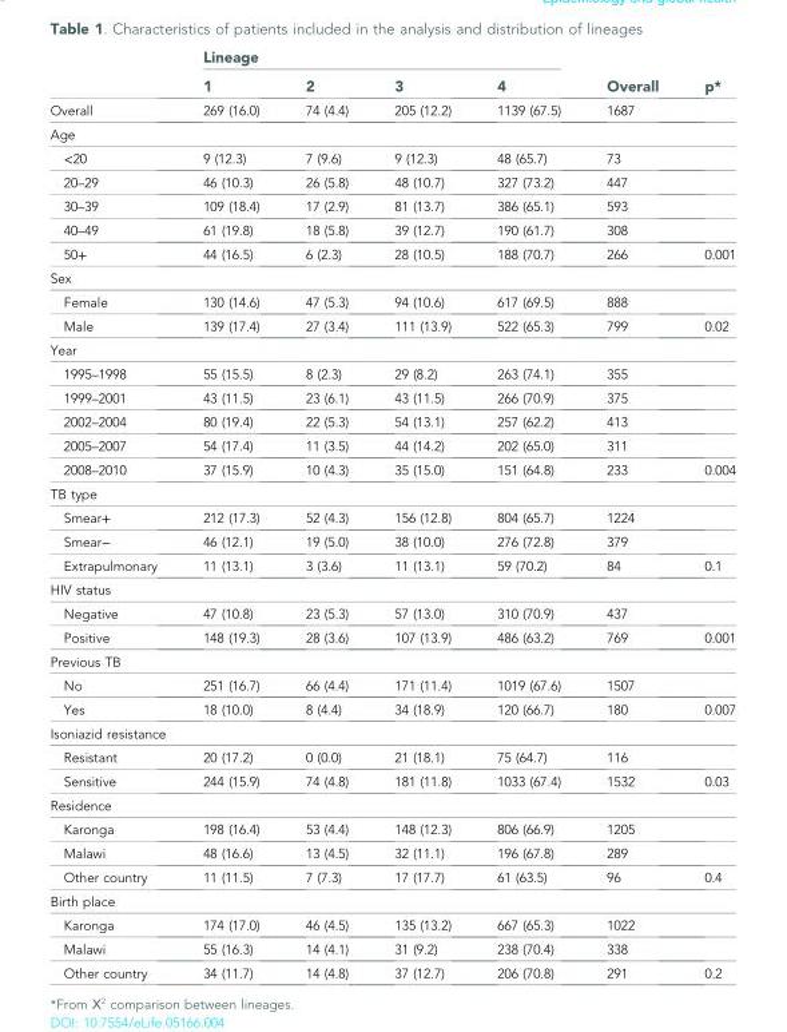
<table><thead><tr><td rowspan="2"></td><td colspan="4">Lineage</td><td rowspan="2">Overall</td><td rowspan="2">p*</td></tr><tr><td>1</td><td>2</td><td>3</td><td>4</td></tr></thead><tbody><tr><td>Overall</td><td>269 (16.0)</td><td>74 (4.4)</td><td>205 (12.2)</td><td>1139 (67.5)</td><td>1687</td><td></td></tr><tr><td colspan="7">Age</td></tr><tr><td>&lt;20</td><td>9 (12.3)</td><td>7 (9.6)</td><td>9 (12.3)</td><td>48 (65.7)</td><td>73</td><td></td></tr><tr><td>20–29</td><td>46 (10.3)</td><td>26 (5.8)</td><td>48 (10.7)</td><td>327 (73.2)</td><td>447</td><td></td></tr><tr><td>30–39</td><td>109 (18.4)</td><td>17 (2.9)</td><td>81 (13.7)</td><td>386 (65.1)</td><td>593</td><td></td></tr><tr><td>40–49</td><td>61 (19.8)</td><td>18 (5.8)</td><td>39 (12.7)</td><td>190 (61.7)</td><td>308</td><td></td></tr><tr><td>50+</td><td>44 (16.5)</td><td>6 (2.3)</td><td>28 (10.5)</td><td>188 (70.7)</td><td>266</td><td>0.001</td></tr><tr><td colspan="7">Sex</td></tr><tr><td>Female</td><td>130 (14.6)</td><td>47 (5.3)</td><td>94 (10.6)</td><td>617 (69.5)</td><td>888</td><td></td></tr><tr><td>Male</td><td>139 (17.4)</td><td>27 (3.4)</td><td>111 (13.9)</td><td>522 (65.3)</td><td>799</td><td>0.02</td></tr><tr><td colspan="7">Year</td></tr><tr><td>1995–1998</td><td>55 (15.5)</td><td>8 (2.3)</td><td>29 (8.2)</td><td>263 (74.1)</td><td>355</td><td></td></tr><tr><td>1999–2001</td><td>43 (11.5)</td><td>23 (6.1)</td><td>43 (11.5)</td><td>266 (70.9)</td><td>375</td><td></td></tr><tr><td>2002–2004</td><td>80 (19.4)</td><td>22 (5.3)</td><td>54 (13.1)</td><td>257 (62.2)</td><td>413</td><td></td></tr><tr><td>2005–2007</td><td>54 (17.4)</td><td>11 (3.5)</td><td>44 (14.2)</td><td>202 (65.0)</td><td>311</td><td></td></tr><tr><td>2008–2010</td><td>37 (15.9)</td><td>10 (4.3)</td><td>35 (15.0)</td><td>151 (64.8)</td><td>233</td><td>0.004</td></tr><tr><td colspan="7">TB type</td></tr><tr><td>Smear+</td><td>212 (17.3)</td><td>52 (4.3)</td><td>156 (12.8)</td><td>804 (65.7)</td><td>1224</td><td></td></tr><tr><td>Smear−</td><td>46 (12.1)</td><td>19 (5.0)</td><td>38 (10.0)</td><td>276 (72.8)</td><td>379</td><td></td></tr><tr><td>Extrapulmonary</td><td>11 (13.1)</td><td>3 (3.6)</td><td>11 (13.1)</td><td>59 (70.2)</td><td>84</td><td>0.1</td></tr><tr><td colspan="7">HIV status</td></tr><tr><td>Negative</td><td>47 (10.8)</td><td>23 (5.3)</td><td>57 (13.0)</td><td>310 (70.9)</td><td>437</td><td></td></tr><tr><td>Positive</td><td>148 (19.3)</td><td>28 (3.6)</td><td>107 (13.9)</td><td>486 (63.2)</td><td>769</td><td>0.001</td></tr><tr><td colspan="7">Previous TB</td></tr><tr><td>No</td><td>251 (16.7)</td><td>66 (4.4)</td><td>171 (11.4)</td><td>1019 (67.6)</td><td>1507</td><td></td></tr><tr><td>Yes</td><td>18 (10.0)</td><td>8 (4.4)</td><td>34 (18.9)</td><td>120 (66.7)</td><td>180</td><td>0.007</td></tr><tr><td colspan="7">Isoniazid resistance</td></tr><tr><td>Resistant</td><td>20 (17.2)</td><td>0 (0.0)</td><td>21 (18.1)</td><td>75 (64.7)</td><td>116</td><td></td></tr><tr><td>Sensitive</td><td>244 (15.9)</td><td>74 (4.8)</td><td>181 (11.8)</td><td>1033 (67.4)</td><td>1532</td><td>0.03</td></tr><tr><td colspan="7">Residence</td></tr><tr><td>Karonga</td><td>198 (16.4)</td><td>53 (4.4)</td><td>148 (12.3)</td><td>806 (66.9)</td><td>1205</td><td></td></tr><tr><td>Malawi</td><td>48 (16.6)</td><td>13 (4.5)</td><td>32 (11.1)</td><td>196 (67.8)</td><td>289</td><td></td></tr><tr><td>Other country</td><td>11 (11.5)</td><td>7 (7.3)</td><td>17 (17.7)</td><td>61 (63.5)</td><td>96</td><td>0.4</td></tr><tr><td colspan="7">Birth place</td></tr><tr><td>Karonga</td><td>174 (17.0)</td><td>46 (4.5)</td><td>135 (13.2)</td><td>667 (65.3)</td><td>1022</td><td></td></tr><tr><td>Malawi</td><td>55 (16.3)</td><td>14 (4.1)</td><td>31 (9.2)</td><td>238 (70.4)</td><td>338</td><td></td></tr><tr><td>Other country</td><td>34 (11.7)</td><td>14 (4.8)</td><td>37 (12.7)</td><td>206 (70.8)</td><td>291</td><td>0.2</td></tr></tbody></table>